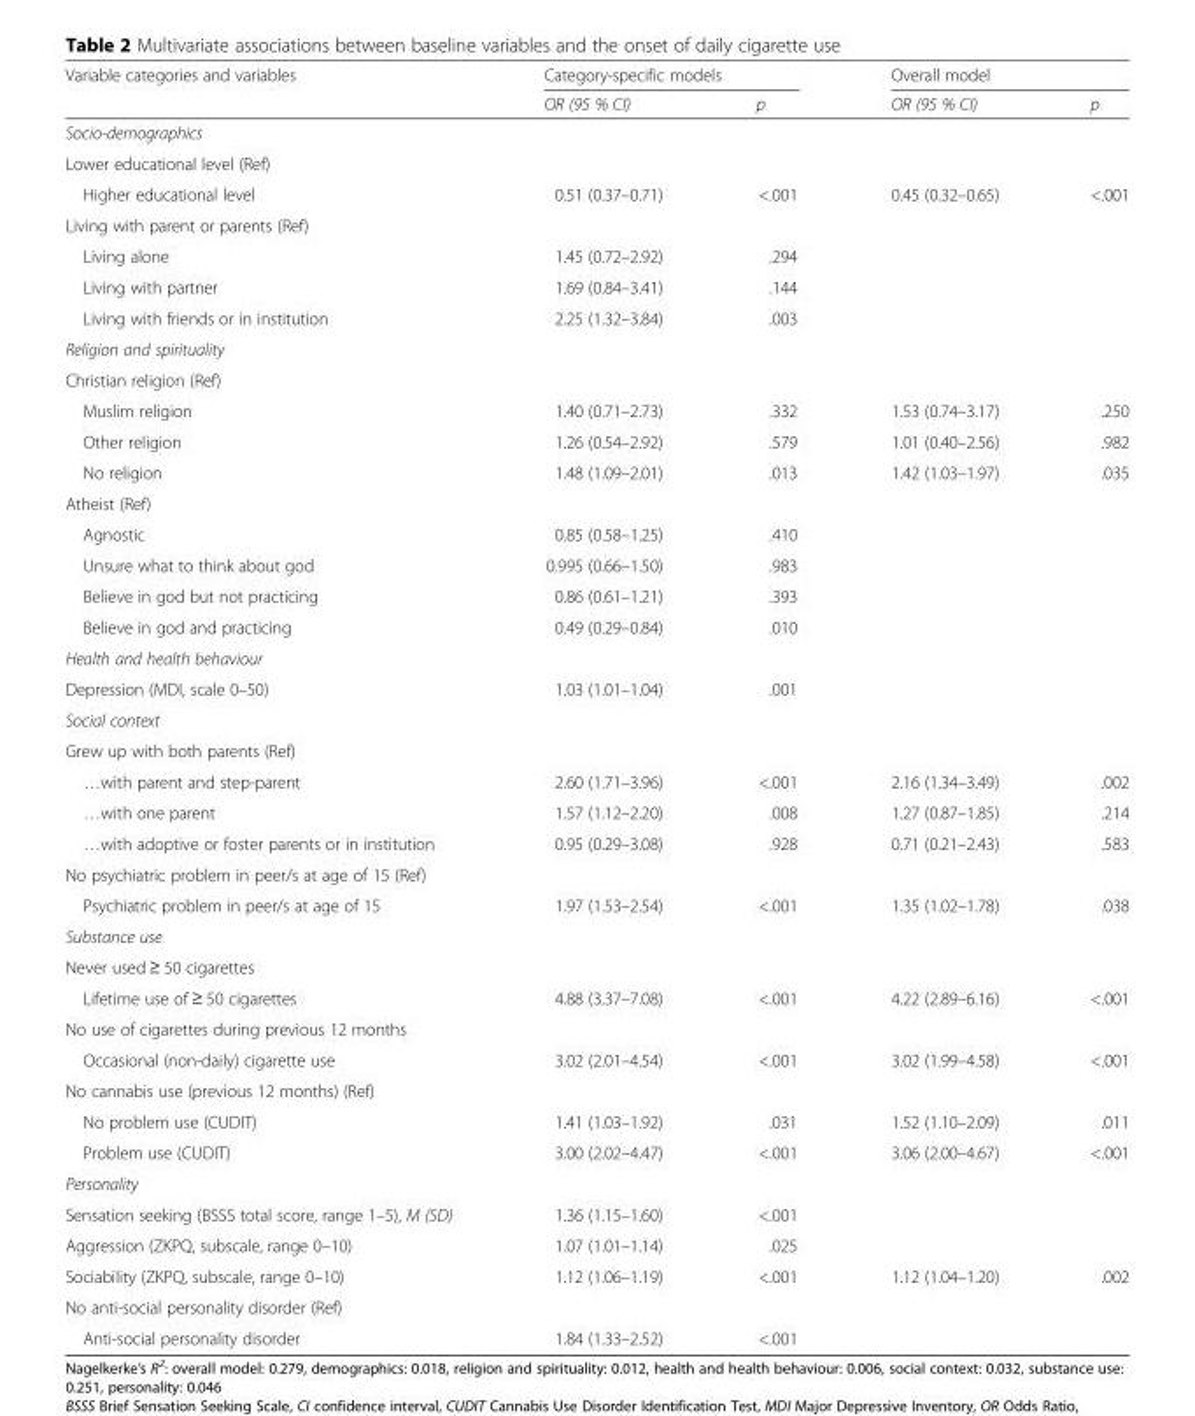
<table><thead><tr><td rowspan="2">Variable categories and variables</td><td colspan="2">Category-specific models</td><td colspan="2">Overall model</td></tr><tr><td>OR (95 % CI)</td><td>p</td><td>OR (95 % CI)</td><td>p</td></tr></thead><tbody><tr><td colspan="5">Socio-demographics</td></tr><tr><td colspan="5">Lower educational level (Ref)</td></tr><tr><td>Higher educational level</td><td>0.51 (0.37–0.71)</td><td>&lt;.001</td><td>0.45 (0.32–0.65)</td><td>&lt;.001</td></tr><tr><td colspan="5">Living with parent or parents (Ref)</td></tr><tr><td>Living alone</td><td>1.45 (0.72–2.92)</td><td>.294</td><td></td><td></td></tr><tr><td>Living with partner</td><td>1.69 (0.84–3.41)</td><td>.144</td><td></td><td></td></tr><tr><td>Living with friends or in institution</td><td>2.25 (1.32–3.84)</td><td>.003</td><td></td><td></td></tr><tr><td colspan="5">Religion and spirituality</td></tr><tr><td colspan="5">Christian religion (Ref)</td></tr><tr><td>Muslim religion</td><td>1.40 (0.71–2.73)</td><td>.332</td><td>1.53 (0.74–3.17)</td><td>.250</td></tr><tr><td>Other religion</td><td>1.26 (0.54–2.92)</td><td>.579</td><td>1.01 (0.40–2.56)</td><td>.982</td></tr><tr><td>No religion</td><td>1.48 (1.09–2.01)</td><td>.013</td><td>1.42 (1.03–1.97)</td><td>.035</td></tr><tr><td colspan="5">Atheist (Ref)</td></tr><tr><td>Agnostic</td><td>0.85 (0.58–1.25)</td><td>.410</td><td></td><td></td></tr><tr><td>Unsure what to think about god</td><td>0.995 (0.66–1.50)</td><td>.983</td><td></td><td></td></tr><tr><td>Believe in god but not practicing</td><td>0.86 (0.61–1.21)</td><td>.393</td><td></td><td></td></tr><tr><td>Believe in god and practicing</td><td>0.49 (0.29–0.84)</td><td>.010</td><td></td><td></td></tr><tr><td colspan="5">Health and health behaviour</td></tr><tr><td>Depression (MDI, scale 0–50)</td><td>1.03 (1.01–1.04)</td><td>.001</td><td></td><td></td></tr><tr><td colspan="5">Social context</td></tr><tr><td colspan="5">Grew up with both parents (Ref)</td></tr><tr><td>…with parent and step-parent</td><td>2.60 (1.71–3.96)</td><td>&lt;.001</td><td>2.16 (1.34–3.49)</td><td>.002</td></tr><tr><td>…with one parent</td><td>1.57 (1.12–2.20)</td><td>.008</td><td>1.27 (0.87–1.85)</td><td>.214</td></tr><tr><td>…with adoptive or foster parents or in institution</td><td>0.95 (0.29–3.08)</td><td>.928</td><td>0.71 (0.21–2.43)</td><td>.583</td></tr><tr><td colspan="5">No psychiatric problem in peer/s at age of 15 (Ref)</td></tr><tr><td>Psychiatric problem in peer/s at age of 15</td><td>1.97 (1.53–2.54)</td><td>&lt;.001</td><td>1.35 (1.02–1.78)</td><td>.038</td></tr><tr><td colspan="5">Substance use</td></tr><tr><td colspan="5">Never used ≥ 50 cigarettes</td></tr><tr><td>Lifetime use of ≥ 50 cigarettes</td><td>4.88 (3.37–7.08)</td><td>&lt;.001</td><td>4.22 (2.89–6.16)</td><td>&lt;.001</td></tr><tr><td colspan="5">No use of cigarettes during previous 12 months</td></tr><tr><td>Occasional (non-daily) cigarette use</td><td>3.02 (2.01–4.54)</td><td>&lt;.001</td><td>3.02 (1.99–4.58)</td><td>&lt;.001</td></tr><tr><td colspan="5">No cannabis use (previous 12 months) (Ref)</td></tr><tr><td>No problem use (CUDIT)</td><td>1.41 (1.03–1.92)</td><td>.031</td><td>1.52 (1.10–2.09)</td><td>.011</td></tr><tr><td>Problem use (CUDIT)</td><td>3.00 (2.02–4.47)</td><td>&lt;.001</td><td>3.06 (2.00–4.67)</td><td>&lt;.001</td></tr><tr><td colspan="5">Personality</td></tr><tr><td>Sensation seeking (BSSS total score, range 1–5), M (SD)</td><td>1.36 (1.15–1.60)</td><td>&lt;.001</td><td></td><td></td></tr><tr><td>Aggression (ZKPQ, subscale, range 0–10)</td><td>1.07 (1.01–1.14)</td><td>.025</td><td></td><td></td></tr><tr><td>Sociability (ZKPQ, subscale, range 0–10)</td><td>1.12 (1.06–1.19)</td><td>&lt;.001</td><td>1.12 (1.04–1.20)</td><td>.002</td></tr><tr><td colspan="5">No anti-social personality disorder (Ref)</td></tr><tr><td>Anti-social personality disorder</td><td>1.84 (1.33–2.52)</td><td>&lt;.001</td><td></td><td></td></tr></tbody></table>